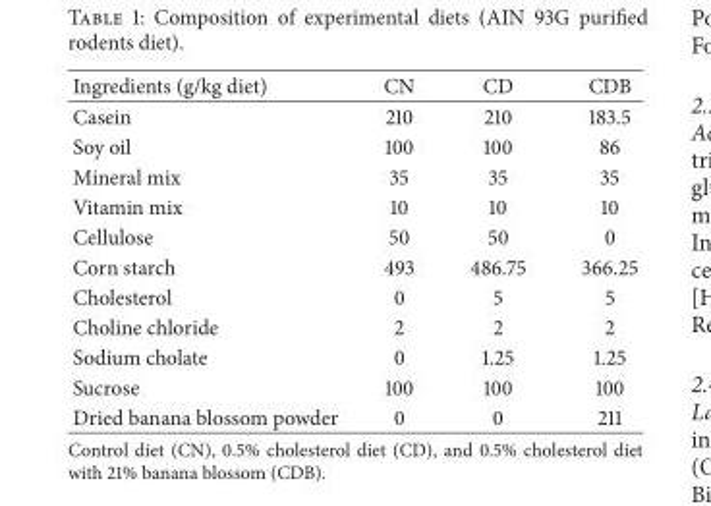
<table><thead><tr><td>Ingredients (g/kg diet)</td><td>CN</td><td>CD</td><td>CDB</td></tr></thead><tbody><tr><td>Casein</td><td>210</td><td>210</td><td>183.5</td></tr><tr><td>Soy oil</td><td>100</td><td>100</td><td>86</td></tr><tr><td>Mineral mix</td><td>35</td><td>35</td><td>35</td></tr><tr><td>Vitamin mix</td><td>10</td><td>10</td><td>10</td></tr><tr><td>Cellulose</td><td>50</td><td>50</td><td>0</td></tr><tr><td>Corn starch</td><td>493</td><td>486.75</td><td>366.25</td></tr><tr><td>Cholesterol</td><td>0</td><td>5</td><td>5</td></tr><tr><td>Choline chloride</td><td>2</td><td>2</td><td>2</td></tr><tr><td>Sodium cholate</td><td>0</td><td>1.25</td><td>1.25</td></tr><tr><td>Sucrose</td><td>100</td><td>100</td><td>100</td></tr><tr><td>Dried banana blossom powder</td><td>0</td><td>0</td><td>211</td></tr></tbody></table>